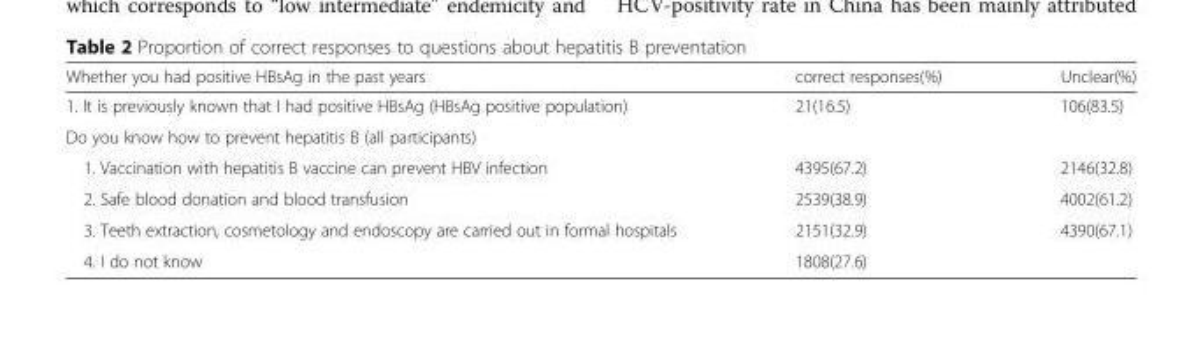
<table><thead><tr><td>Whether you had positive HBsAg in the past years</td><td>correct responses(%)</td><td>Unclear(%)</td></tr></thead><tbody><tr><td>1. It is previously known that I had positive HBsAg (HBsAg positive population)</td><td>21(16.5)</td><td>106(83.5)</td></tr><tr><td colspan="3">Do you know how to prevent hepatitis B (all participants)</td></tr><tr><td>1. Vaccination with hepatitis B vaccine can prevent HBV infection</td><td>4395(67.2)</td><td>2146(32.8)</td></tr><tr><td>2. Safe blood donation and blood transfusion</td><td>2539(38.9)</td><td>4002(61.2)</td></tr><tr><td>3. Teeth extraction, cosmetology and endoscopy are carried out in formal hospitals</td><td>2151(32.9)</td><td>4390(67.1)</td></tr><tr><td>4. I do not know</td><td>1808(27.6)</td><td></td></tr></tbody></table>